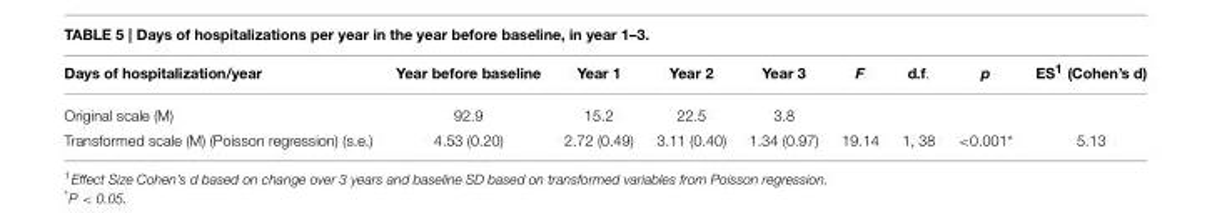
<table><thead><tr><td>Days of hospitalization/year</td><td>Year before baseline</td><td>Year 1</td><td>Year 2</td><td>Year 3</td><td>F</td><td>d.f.</td><td>p</td><td>ES<sup>1</sup> (Cohen’s d)</td></tr></thead><tbody><tr><td>Original scale (M)</td><td>92.9</td><td>15.2</td><td>22.5</td><td>3.8</td><td></td><td></td><td></td><td></td></tr><tr><td>Transformed scale (M) (Poisson regression) (s.e.)</td><td>4.53 (0.20)</td><td>2.72 (0.49)</td><td>3.11 (0.40)</td><td>1.34 (0.97)</td><td>19.14</td><td>1, 38</td><td>&lt;0.001*</td><td>5.13</td></tr></tbody></table>